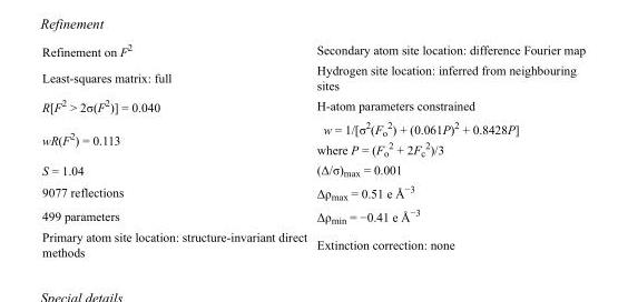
<table><tbody><tr><td>Refinement on F<sup>2</sup></td><td>Secondary atom site location: difference Fourier map</td></tr><tr><td>Least-squares matrix: full</td><td>Hydrogen site location: inferred from neighbouring sites</td></tr><tr><td>R[F<sup>2</sup> &gt; 2σ(F<sup>2</sup>)] = 0.040</td><td>H-atom parameters constrained</td></tr><tr><td>wR(F<sup>2</sup>) = 0.113</td><td>w = 1/[σ<sup>2</sup>(F<sub>o</sub> <sup>2</sup>) + (0.061P)<sup>2</sup> + 0.8428P] where P = (F<sub>o</sub> <sup>2</sup> + 2F<sub>c</sub> <sup>2</sup>)/3</td></tr><tr><td>S = 1.04</td><td>(Δ/σ)<sub>max</sub> = 0.001</td></tr><tr><td>9077 reflections</td><td>Δρ<sub>max</sub> = 0.51 e Å<sup>−3</sup></td></tr><tr><td>499 parameters</td><td>Δρ<sub>min</sub> = −0.41 e Å<sup>−3</sup></td></tr><tr><td>Primary atom site location: structure-invariant direct methods</td><td>Extinction correction: none</td></tr></tbody></table>